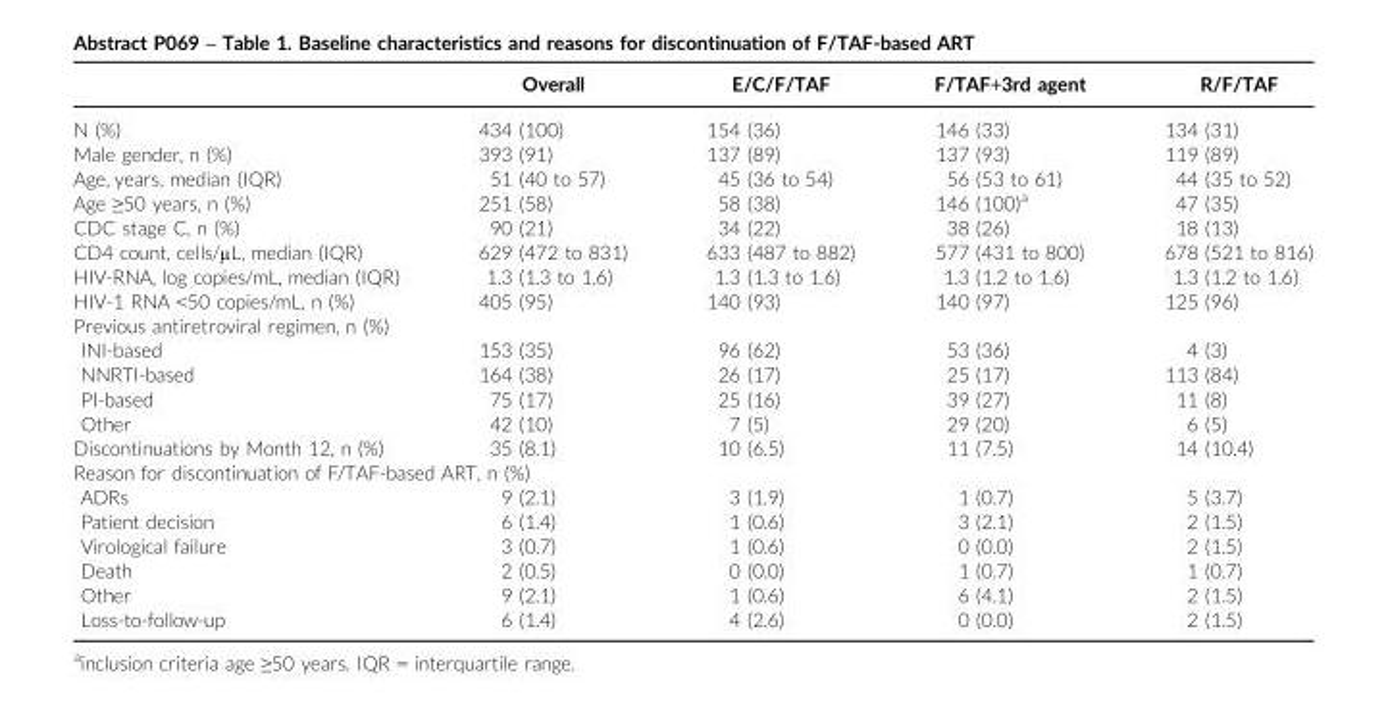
<table><thead><tr><td></td><td>Overall</td><td>E/C/F/TAF</td><td>F/TAF+3rd agent</td><td>R/F/TAF</td></tr></thead><tbody><tr><td>N (%)</td><td>434 (100)</td><td>154 (36)</td><td>146 (33)</td><td>134 (31)</td></tr><tr><td>Male gender, n (%)</td><td>393 (91)</td><td>137 (89)</td><td>137 (93)</td><td>119 (89)</td></tr><tr><td>Age, years, median (IQR)</td><td>51 (40 to 57)</td><td>45 (36 to 54)</td><td>56 (53 to 61)</td><td>44 (35 to 52)</td></tr><tr><td>Age ≥50 years, n (%)</td><td>251 (58)</td><td>58 (38)</td><td>146 (100)<sup>a</sup></td><td>47 (35)</td></tr><tr><td>CDC stage C, n (%)</td><td>90 (21)</td><td>34 (22)</td><td>38 (26)</td><td>18 (13)</td></tr><tr><td>CD4 count, cells/μL, median (IQR)</td><td>629 (472 to 831)</td><td>633 (487 to 882)</td><td>577 (431 to 800)</td><td>678 (521 to 816)</td></tr><tr><td>HIV-RNA, log copies/mL, median (IQR)</td><td>1.3 (1.3 to 1.6)</td><td>1.3 (1.3 to 1.6)</td><td>1.3 (1.2 to 1.6)</td><td>1.3 (1.2 to 1.6)</td></tr><tr><td>HIV-1 RNA &lt;50 copies/mL, n (%)</td><td>405 (95)</td><td>140 (93)</td><td>140 (97)</td><td>125 (96)</td></tr><tr><td colspan="5">Previous antiretroviral regimen, n (%)</td></tr><tr><td>INI-based</td><td>153 (35)</td><td>96 (62)</td><td>53 (36)</td><td>4 (3)</td></tr><tr><td>NNRTI-based</td><td>164 (38)</td><td>26 (17)</td><td>25 (17)</td><td>113 (84)</td></tr><tr><td>PI-based</td><td>75 (17)</td><td>25 (16)</td><td>39 (27)</td><td>11 (8)</td></tr><tr><td>Other</td><td>42 (10)</td><td>7 (5)</td><td>29 (20)</td><td>6 (5)</td></tr><tr><td>Discontinuations by Month 12, n (%)</td><td>35 (8.1)</td><td>10 (6.5)</td><td>11 (7.5)</td><td>14 (10.4)</td></tr><tr><td colspan="5">Reason for discontinuation of F/TAF-based ART, n (%)</td></tr><tr><td>ADRs</td><td>9 (2.1)</td><td>3 (1.9)</td><td>1 (0.7)</td><td>5 (3.7)</td></tr><tr><td>Patient decision</td><td>6 (1.4)</td><td>1 (0.6)</td><td>3 (2.1)</td><td>2 (1.5)</td></tr><tr><td>Virological failure</td><td>3 (0.7)</td><td>1 (0.6)</td><td>0 (0.0)</td><td>2 (1.5)</td></tr><tr><td>Death</td><td>2 (0.5)</td><td>0 (0.0)</td><td>1 (0.7)</td><td>1 (0.7)</td></tr><tr><td>Other</td><td>9 (2.1)</td><td>1 (0.6)</td><td>6 (4.1)</td><td>2 (1.5)</td></tr><tr><td>Loss-to-follow-up</td><td>6 (1.4)</td><td>4 (2.6)</td><td>0 (0.0)</td><td>2 (1.5)</td></tr></tbody></table>